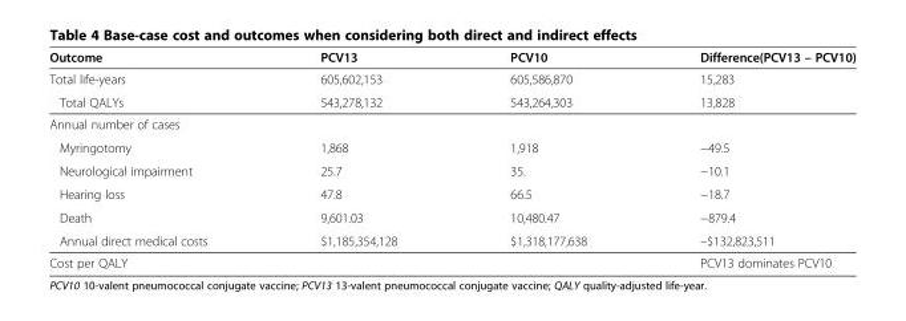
<table><thead><tr><td>Outcome</td><td>PCV13</td><td>PCV10</td><td>Difference(PCV13 – PCV10)</td></tr></thead><tbody><tr><td>Total life-years</td><td>605,602,153</td><td>605,586,870</td><td>15,283</td></tr><tr><td>Total QALYs</td><td>543,278,132</td><td>543,264,303</td><td>13,828</td></tr><tr><td colspan="4">Annual number of cases</td></tr><tr><td>Myringotomy</td><td>1,868</td><td>1,918</td><td>−49.5</td></tr><tr><td>Neurological impairment</td><td>25.7</td><td>35.</td><td>−10.1</td></tr><tr><td>Hearing loss</td><td>47.8</td><td>66.5</td><td>−18.7</td></tr><tr><td>Death</td><td>9,601.03</td><td>10,480.47</td><td>−879.4</td></tr><tr><td>Annual direct medical costs</td><td>$1,185,354,128</td><td>$1,318,177,638</td><td>–$132,823,511</td></tr><tr><td colspan="3">Cost per QALY</td><td>PCV13 dominates PCV10</td></tr></tbody></table>